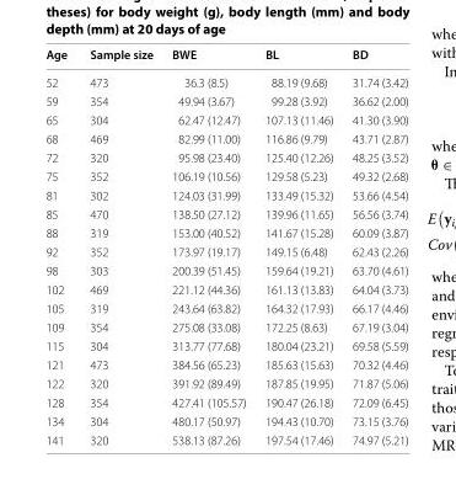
<table><thead><tr><td>Age</td><td>Sample size</td><td>BWE</td><td>BL</td><td>BD</td></tr></thead><tbody><tr><td>52</td><td>473</td><td>36.3 (8.5)</td><td>88.19 (9.68)</td><td>31.74 (3.42)</td></tr><tr><td>59</td><td>354</td><td>49.94 (3.67)</td><td>99.28 (3.92)</td><td>36.62 (2.00)</td></tr><tr><td>65</td><td>304</td><td>62.47 (12.47)</td><td>107.13 (11.46)</td><td>41.30 (3.90)</td></tr><tr><td>68</td><td>469</td><td>82.99 (11.00)</td><td>116.86 (9.79)</td><td>43.71 (2.87)</td></tr><tr><td>72</td><td>320</td><td>95.98 (23.40)</td><td>125.40 (12.26)</td><td>48.25 (3.52)</td></tr><tr><td>75</td><td>352</td><td>106.19 (10.56)</td><td>129.58 (5.23)</td><td>49.32 (2.68)</td></tr><tr><td>81</td><td>302</td><td>124.03 (31.99)</td><td>133.49 (15.32)</td><td>53.66 (4.54)</td></tr><tr><td>85</td><td>470</td><td>138.50 (27.12)</td><td>139.96 (11.65)</td><td>56.56 (3.74)</td></tr><tr><td>88</td><td>319</td><td>153.00 (40.52)</td><td>141.67 (15.28)</td><td>60.09 (3.87)</td></tr><tr><td>92</td><td>352</td><td>173.97 (19.17)</td><td>149.15 (6.48)</td><td>62.43 (2.26)</td></tr><tr><td>98</td><td>303</td><td>200.39 (51.45)</td><td>159.64 (19.21)</td><td>63.70 (4.61)</td></tr><tr><td>102</td><td>469</td><td>221.12 (44.36)</td><td>161.13 (13.83)</td><td>64.04 (3.73)</td></tr><tr><td>105</td><td>319</td><td>243.64 (63.82)</td><td>164.32 (17.93)</td><td>66.17 (4.46)</td></tr><tr><td>109</td><td>354</td><td>275.08 (33.08)</td><td>172.25 (8.63)</td><td>67.19 (3.04)</td></tr><tr><td>115</td><td>304</td><td>313.77 (77.68)</td><td>180.04 (23.21)</td><td>69.58 (5.59)</td></tr><tr><td>121</td><td>473</td><td>384.56 (65.23)</td><td>185.63 (15.63)</td><td>70.32 (4.46)</td></tr><tr><td>122</td><td>320</td><td>391.92 (89.49)</td><td>187.85 (19.95)</td><td>71.87 (5.06)</td></tr><tr><td>128</td><td>354</td><td>427.41 (105.57)</td><td>190.47 (26.18)</td><td>72.09 (6.45)</td></tr><tr><td>134</td><td>304</td><td>480.17 (50.97)</td><td>194.43 (10.70)</td><td>73.15 (3.76)</td></tr><tr><td>141</td><td>320</td><td>538.13 (87.26)</td><td>197.54 (17.46)</td><td>74.97 (5.21)</td></tr></tbody></table>